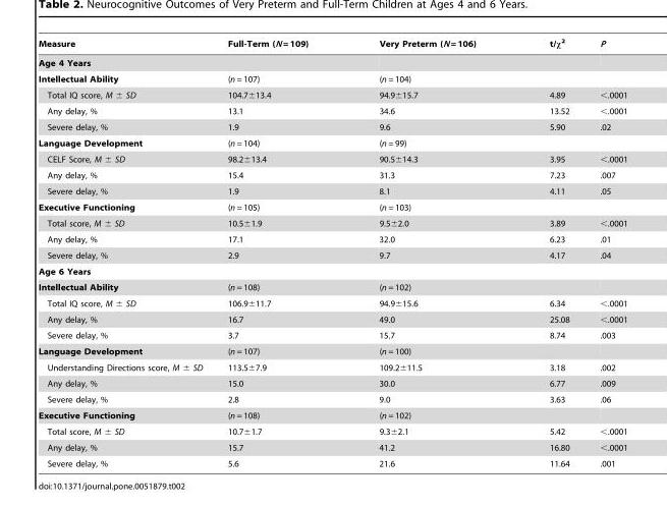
<table><thead><tr><td>Measure</td><td>Full-Term (N = 109)</td><td>Very Preterm (N = 106)</td><td>t/χ<sup>2</sup></td><td>P</td></tr></thead><tbody><tr><td colspan="5">Age 4 Years</td></tr><tr><td>Intellectual Ability</td><td>(n = 107)</td><td>(n = 104)</td><td></td><td></td></tr><tr><td>Total IQ score, M ± SD</td><td>104.7±13.4</td><td>94.9±15.7</td><td>4.89</td><td>&lt;.0001</td></tr><tr><td>Any delay, %</td><td>13.1</td><td>34.6</td><td>13.52</td><td>&lt;.0001</td></tr><tr><td>Severe delay, %</td><td>1.9</td><td>9.6</td><td>5.90</td><td>.02</td></tr><tr><td>Language Development</td><td>(n = 104)</td><td>(n = 99)</td><td></td><td></td></tr><tr><td>CELF Score, M ± SD</td><td>98.2±13.4</td><td>90.5±14.3</td><td>3.95</td><td>&lt;.0001</td></tr><tr><td>Any delay, %</td><td>15.4</td><td>31.3</td><td>7.23</td><td>.007</td></tr><tr><td>Severe delay, %</td><td>1.9</td><td>8.1</td><td>4.11</td><td>.05</td></tr><tr><td>Executive Functioning</td><td>(n = 105)</td><td>(n = 103)</td><td></td><td></td></tr><tr><td>Total score, M ± SD</td><td>10.5±1.9</td><td>9.5±2.0</td><td>3.89</td><td>&lt;.0001</td></tr><tr><td>Any delay, %</td><td>17.1</td><td>32.0</td><td>6.23</td><td>.01</td></tr><tr><td>Severe delay, %</td><td>2.9</td><td>9.7</td><td>4.17</td><td>.04</td></tr><tr><td colspan="5">Age 6 Years</td></tr><tr><td>Intellectual Ability</td><td>(n = 108)</td><td>(n = 102)</td><td></td><td></td></tr><tr><td>Total IQ score, M ± SD</td><td>106.9±11.7</td><td>94.9±15.6</td><td>6.34</td><td>&lt;.0001</td></tr><tr><td>Any delay, %</td><td>16.7</td><td>49.0</td><td>25.08</td><td>&lt;.0001</td></tr><tr><td>Severe delay, %</td><td>3.7</td><td>15.7</td><td>8.74</td><td>.003</td></tr><tr><td>Language Development</td><td>(n = 107)</td><td>(n = 100)</td><td></td><td></td></tr><tr><td>Understanding Directions score, M ± SD</td><td>113.5±7.9</td><td>109.2±11.5</td><td>3.18</td><td>.002</td></tr><tr><td>Any delay, %</td><td>15.0</td><td>30.0</td><td>6.77</td><td>.009</td></tr><tr><td>Severe delay, %</td><td>2.8</td><td>9.0</td><td>3.63</td><td>.06</td></tr><tr><td>Executive Functioning</td><td>(n = 108)</td><td>(n = 102)</td><td></td><td></td></tr><tr><td>Total score, M ± SD</td><td>10.7±1.7</td><td>9.3±2.1</td><td>5.42</td><td>&lt;.0001</td></tr><tr><td>Any delay, %</td><td>15.7</td><td>41.2</td><td>16.80</td><td>&lt;.0001</td></tr><tr><td>Severe delay, %</td><td>5.6</td><td>21.6</td><td>11.64</td><td>.001</td></tr></tbody></table>